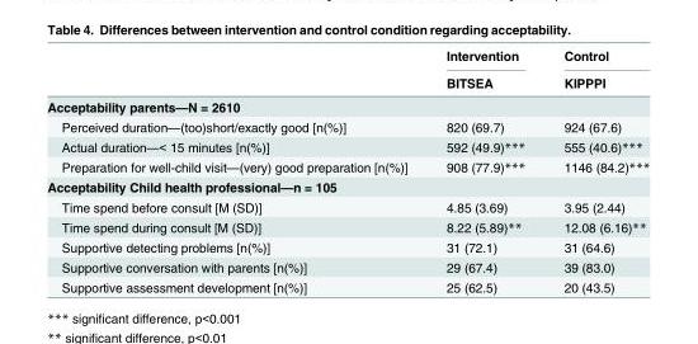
<table><thead><tr><td rowspan="2"></td><td rowspan="2">Intervention BITSEA</td><td rowspan="2">Control KIPPPI</td></tr><tr></tr></thead><tbody><tr><td colspan="3">Acceptability parents—N = 2610</td></tr><tr><td>Perceived duration—(too)short/exactly good [n(%)]</td><td>820 (69.7)</td><td>924 (67.6)</td></tr><tr><td>Actual duration—&lt; 15 minutes [n(%)]</td><td>592 (49.9)***</td><td>555 (40.6)***</td></tr><tr><td>Preparation for well-child visit—(very) good preparation [n(%)]</td><td>908 (77.9)***</td><td>1146 (84.2)***</td></tr><tr><td colspan="3">Acceptability Child health professional—n = 105</td></tr><tr><td>Time spend before consult [M (SD)]</td><td>4.85 (3.69)</td><td>3.95 (2.44)</td></tr><tr><td>Time spend during consult [M (SD)]</td><td>8.22 (5.89)**</td><td>12.08 (6.16)**</td></tr><tr><td>Supportive detecting problems [n(%)]</td><td>31 (72.1)</td><td>31 (64.6)</td></tr><tr><td>Supportive conversation with parents [n(%)]</td><td>29 (67.4)</td><td>39 (83.0)</td></tr><tr><td>Supportive assessment development [n(%)]</td><td>25 (62.5)</td><td>20 (43.5)</td></tr></tbody></table>